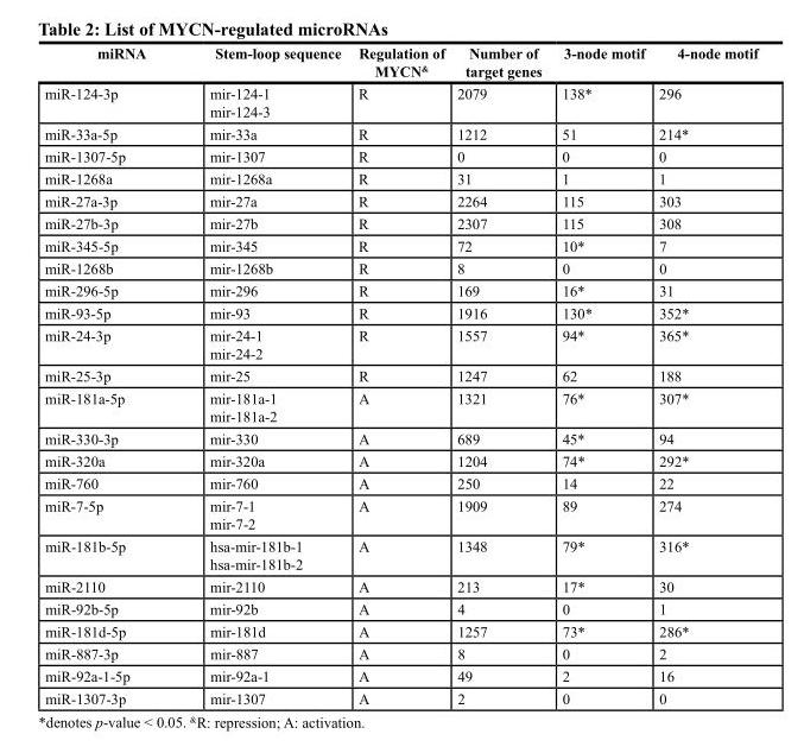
<table><thead><tr><td>mirnA</td><td>stem-loop sequence</td><td>regulation of MYcn<sup>&amp;</sup></td><td>number of target genes</td><td>3-node motif</td><td>4-node motif</td></tr></thead><tbody><tr><td>miR-124-3p</td><td>mir-124-1 mir-124-3</td><td>R</td><td>2079</td><td>138*</td><td>296</td></tr><tr><td>miR-33a-5p</td><td>mir-33a</td><td>R</td><td>1212</td><td>51</td><td>214*</td></tr><tr><td>miR-1307-5p</td><td>mir-1307</td><td>R</td><td>0</td><td>0</td><td>0</td></tr><tr><td>miR-1268a</td><td>mir-1268a</td><td>R</td><td>31</td><td>1</td><td>1</td></tr><tr><td>miR-27a-3p</td><td>mir-27a</td><td>R</td><td>2264</td><td>115</td><td>303</td></tr><tr><td>miR-27b-3p</td><td>mir-27b</td><td>R</td><td>2307</td><td>115</td><td>308</td></tr><tr><td>miR-345-5p</td><td>mir-345</td><td>R</td><td>72</td><td>10*</td><td>7</td></tr><tr><td>miR-1268b</td><td>mir-1268b</td><td>R</td><td>8</td><td>0</td><td>0</td></tr><tr><td>miR-296-5p</td><td>mir-296</td><td>R</td><td>169</td><td>16*</td><td>31</td></tr><tr><td>miR-93-5p</td><td>mir-93</td><td>R</td><td>1916</td><td>130*</td><td>352*</td></tr><tr><td>miR-24-3p</td><td>mir-24-1 mir-24-2</td><td>R</td><td>1557</td><td>94*</td><td>365*</td></tr><tr><td>miR-25-3p</td><td>mir-25</td><td>R</td><td>1247</td><td>62</td><td>188</td></tr><tr><td>miR-181a-5p</td><td>mir-181a-1 mir-181a-2</td><td>A</td><td>1321</td><td>76*</td><td>307*</td></tr><tr><td>miR-330-3p</td><td>mir-330</td><td>A</td><td>689</td><td>45*</td><td>94</td></tr><tr><td>miR-320a</td><td>mir-320a</td><td>A</td><td>1204</td><td>74*</td><td>292*</td></tr><tr><td>miR-760</td><td>mir-760</td><td>A</td><td>250</td><td>14</td><td>22</td></tr><tr><td>miR-7-5p</td><td>mir-7-1 mir-7-2</td><td>A</td><td>1909</td><td>89</td><td>274</td></tr><tr><td>miR-181b-5p</td><td>hsa-mir-181b-1 hsa-mir-181b-2</td><td>A</td><td>1348</td><td>79*</td><td>316*</td></tr><tr><td>miR-2110</td><td>mir-2110</td><td>A</td><td>213</td><td>17*</td><td>30</td></tr><tr><td>miR-92b-5p</td><td>mir-92b</td><td>A</td><td>4</td><td>0</td><td>1</td></tr><tr><td>miR-181d-5p</td><td>mir-181d</td><td>A</td><td>1257</td><td>73*</td><td>286*</td></tr><tr><td>miR-887-3p</td><td>mir-887</td><td>A</td><td>8</td><td>0</td><td>2</td></tr><tr><td>miR-92a-1-5p</td><td>mir-92a-1</td><td>A</td><td>49</td><td>2</td><td>16</td></tr><tr><td>miR-1307-3p</td><td>mir-1307</td><td>A</td><td>2</td><td>0</td><td>0</td></tr></tbody></table>